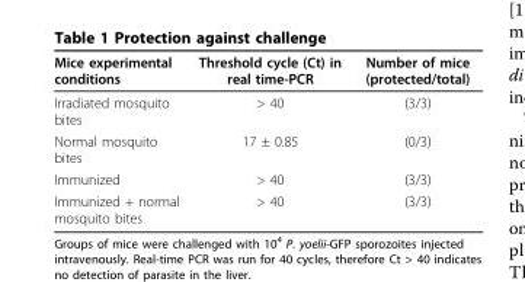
<table><thead><tr><td>Mice experimental conditions</td><td>Threshold cycle (Ct) in real time-PCR</td><td>Number of mice (protected/total)</td></tr></thead><tbody><tr><td>Irradiated mosquito bites</td><td>&gt; 40</td><td>(3/3)</td></tr><tr><td>Normal mosquito bites</td><td>17 ± 0.85</td><td>(0/3)</td></tr><tr><td>Immunized</td><td>&gt; 40</td><td>(3/3)</td></tr><tr><td>Immunized + normal mosquito bites</td><td>&gt; 40</td><td>(3/3)</td></tr></tbody></table>